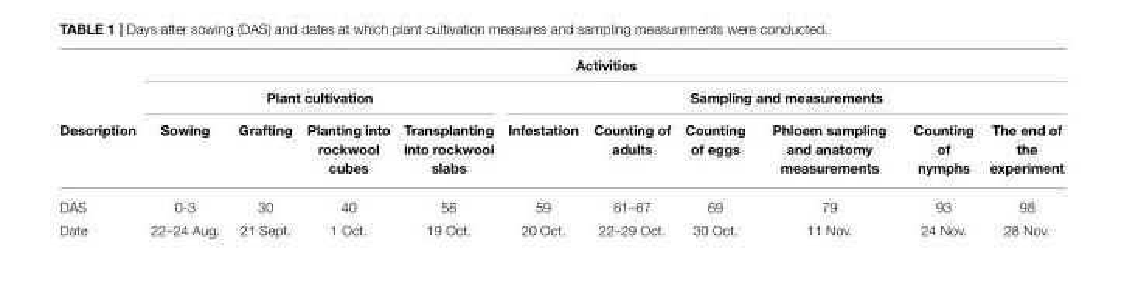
<table><thead><tr><td rowspan="3">Description</td><td colspan="10">Activities</td></tr><tr><td colspan="4">Plant cultivation</td><td colspan="6">Sampling and measurements</td></tr><tr><td>Sowing</td><td>Grafting</td><td>Planting into rockwool cubes</td><td>Transplanting into rockwool slabs</td><td>Infestation</td><td>Counting of adults</td><td>Counting of eggs</td><td>Phloem sampling and anatomy measurements</td><td>Counting of nymphs</td><td>The end of the experiment</td></tr></thead><tbody><tr><td>DAS</td><td>0-3</td><td>30</td><td>40</td><td>58</td><td>59</td><td>61–67</td><td>69</td><td>79</td><td>93</td><td>98</td></tr><tr><td>Date</td><td>22–24 Aug.</td><td>21 Sept.</td><td>1 Oct.</td><td>19 Oct.</td><td>20 Oct.</td><td>22–29 Oct.</td><td>30 Oct.</td><td>11 Nov.</td><td>24 Nov.</td><td>28 Nov.</td></tr></tbody></table>